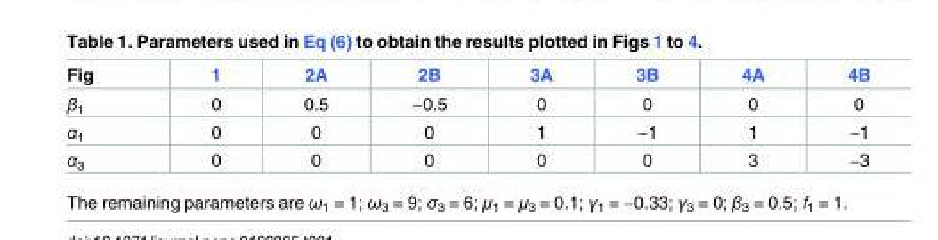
<table><thead><tr><td>Fig</td><td>1</td><td>2A</td><td>2B</td><td>3A</td><td>3B</td><td>4A</td><td>4B</td></tr></thead><tbody><tr><td>β<sub>1</sub></td><td>0</td><td>0.5</td><td>−0.5</td><td>0</td><td>0</td><td>0</td><td>0</td></tr><tr><td>α<sub>1</sub></td><td>0</td><td>0</td><td>0</td><td>1</td><td>−1</td><td>1</td><td>−1</td></tr><tr><td>α<sub>3</sub></td><td>0</td><td>0</td><td>0</td><td>0</td><td>0</td><td>3</td><td>−3</td></tr></tbody></table>